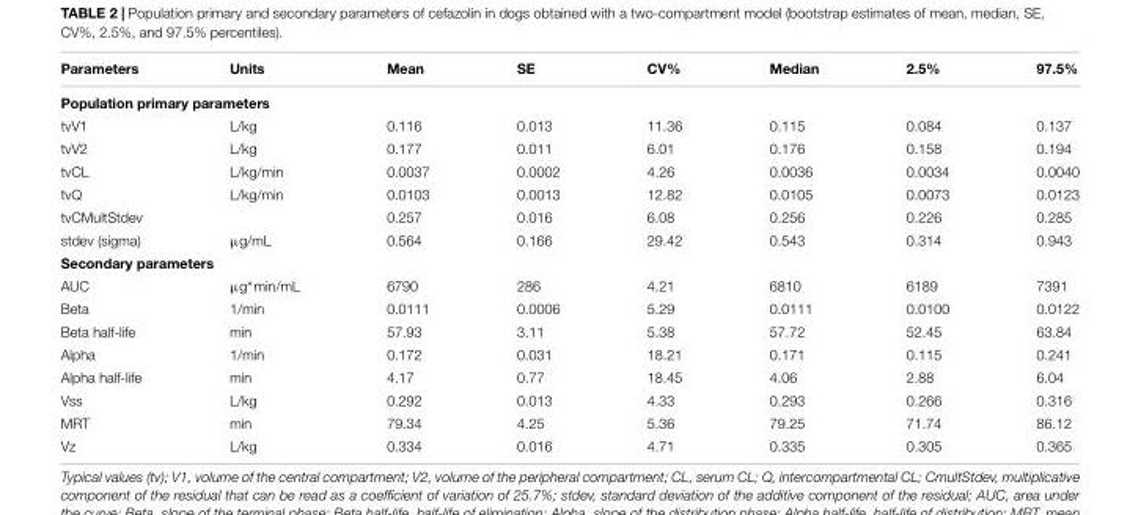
<table><thead><tr><td>Parameters</td><td>Units</td><td>Mean</td><td>SE</td><td>CV%</td><td>Median</td><td>2.5%</td><td>97.5%</td></tr></thead><tbody><tr><td colspan="8">Population primary parameters</td></tr><tr><td>tvV1</td><td>L/kg</td><td>0.116</td><td>0.013</td><td>11.36</td><td>0.115</td><td>0.084</td><td>0.137</td></tr><tr><td>tvV2</td><td>L/kg</td><td>0.177</td><td>0.011</td><td>6.01</td><td>0.176</td><td>0.158</td><td>0.194</td></tr><tr><td>tvCL</td><td>L/kg/min</td><td>0.0037</td><td>0.0002</td><td>4.26</td><td>0.0036</td><td>0.0034</td><td>0.0040</td></tr><tr><td>tvQ</td><td>L/kg/min</td><td>0.0103</td><td>0.0013</td><td>12.82</td><td>0.0105</td><td>0.0073</td><td>0.0123</td></tr><tr><td>tvCMultStdev</td><td></td><td>0.257</td><td>0.016</td><td>6.08</td><td>0.256</td><td>0.226</td><td>0.285</td></tr><tr><td>stdev (sigma)</td><td>µg/mL</td><td>0.564</td><td>0.166</td><td>29.42</td><td>0.543</td><td>0.314</td><td>0.943</td></tr><tr><td colspan="8">Secondary parameters</td></tr><tr><td>AUC</td><td>µg∗min/mL</td><td>6790</td><td>286</td><td>4.21</td><td>6810</td><td>6189</td><td>7391</td></tr><tr><td>Beta</td><td>1/min</td><td>0.0111</td><td>0.0006</td><td>5.29</td><td>0.0111</td><td>0.0100</td><td>0.0122</td></tr><tr><td>Beta half-life</td><td>min</td><td>57.93</td><td>3.11</td><td>5.38</td><td>57.72</td><td>52.45</td><td>63.84</td></tr><tr><td>Alpha</td><td>1/min</td><td>0.172</td><td>0.031</td><td>18.21</td><td>0.171</td><td>0.115</td><td>0.241</td></tr><tr><td>Alpha half-life</td><td>min</td><td>4.17</td><td>0.77</td><td>18.45</td><td>4.06</td><td>2.88</td><td>6.04</td></tr><tr><td>Vss</td><td>L/kg</td><td>0.292</td><td>0.013</td><td>4.33</td><td>0.293</td><td>0.266</td><td>0.316</td></tr><tr><td>MRT</td><td>min</td><td>79.34</td><td>4.25</td><td>5.36</td><td>79.25</td><td>71.74</td><td>86.12</td></tr><tr><td>Vz</td><td>L/kg</td><td>0.334</td><td>0.016</td><td>4.71</td><td>0.335</td><td>0.305</td><td>0.365</td></tr></tbody></table>